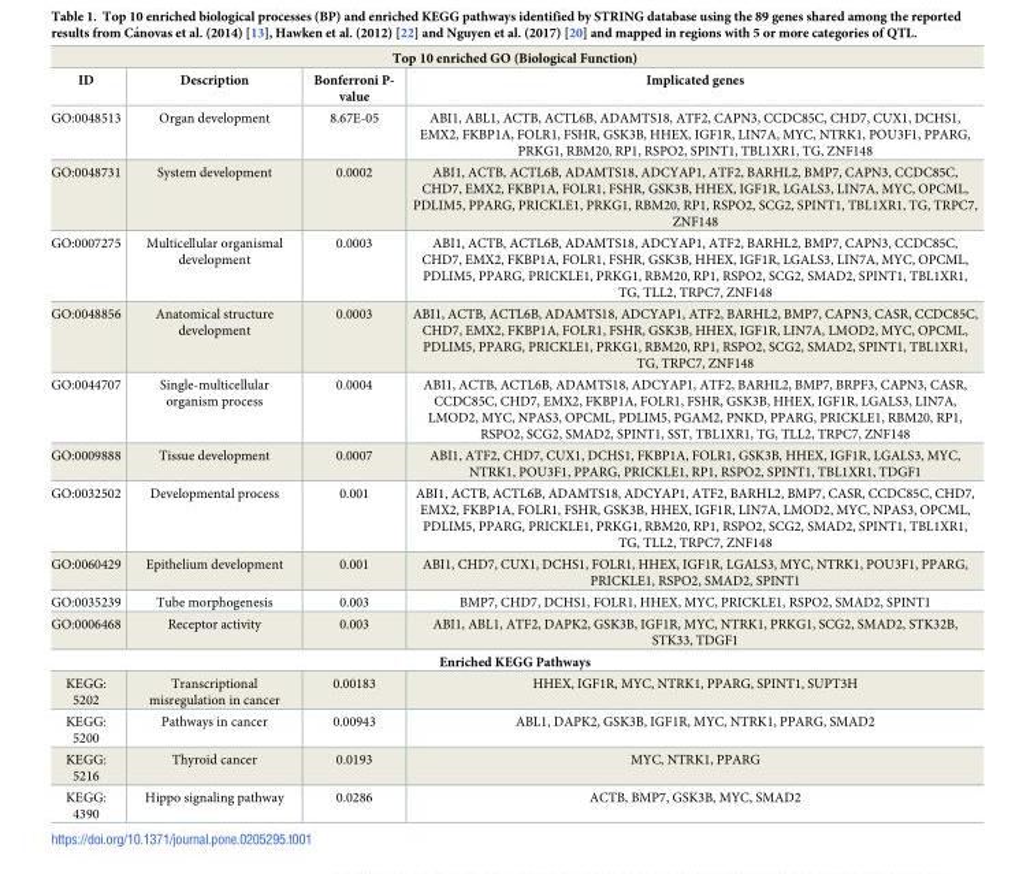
<table><thead><tr><td colspan="4">Top 10 enriched GO (Biological Function)</td></tr><tr><td>ID</td><td>Description</td><td>Bonferroni P- value</td><td>Implicated genes</td></tr></thead><tbody><tr><td>GO:0048513</td><td>Organ development</td><td>8.67E-05</td><td>ABI1, ABL1, ACTB, ACTL6B, ADAMTS18, ATF2, CAPN3, CCDC85C, CHD7, CUX1, DCHS1, EMX2, FKBP1A, FOLR1, FSHR, GSK3B, HHEX, IGF1R, LIN7A, MYC, NTRK1, POU3F1, PPARG, PRKG1, RBM20, RP1, RSPO2, SPINT1, TBL1XR1, TG, ZNF148</td></tr><tr><td>GO:0048731</td><td>System development</td><td>0.0002</td><td>ABI1, ACTB, ACTL6B, ADAMTS18, ADCYAP1, ATF2, BARHL2, BMP7, CAPN3, CCDC85C, CHD7, EMX2, FKBP1A, FOLR1, FSHR, GSK3B, HHEX, IGF1R, LGALS3, LIN7A, MYC, OPCML, PDLIM5, PPARG, PRICKLE1, PRKG1, RBM20, RP1, RSPO2, SCG2, SPINT1, TBL1XR1, TG, TRPC7, ZNF148</td></tr><tr><td>GO:0007275</td><td>Multicellular organismal development</td><td>0.0003</td><td>ABI1, ACTB, ACTL6B, ADAMTS18, ADCYAP1, ATF2, BARHL2, BMP7, CAPN3, CCDC85C, CHD7, EMX2, FKBP1A, FOLR1, FSHR, GSK3B, HHEX, IGF1R, LGALS3, LIN7A, MYC, OPCML, PDLIM5, PPARG, PRICKLE1, PRKG1, RBM20, RP1, RSPO2, SCG2, SMAD2, SPINT1, TBL1XR1, TG, TLL2, TRPC7, ZNF148</td></tr><tr><td>GO:0048856</td><td>Anatomical structure development</td><td>0.0003</td><td>ABI1, ACTB, ACTL6B, ADAMTS18, ADCYAP1, ATF2, BARHL2, BMP7, CAPN3, CASR, CCDC85C, CHD7, EMX2, FKBP1A, FOLR1, FSHR, GSK3B, HHEX, IGF1R, LIN7A, LMOD2, MYC, OPCML, PDLIM5, PPARG, PRICKLE1, PRKG1, RBM20, RP1, RSPO2, SCG2, SMAD2, SPINT1, TBL1XR1, TG, TRPC7, ZNF148</td></tr><tr><td>GO:0044707</td><td>Single-multicellular organism process</td><td>0.0004</td><td>ABI1, ACTB, ACTL6B, ADAMTS18, ADCYAP1, ATF2, BARHL2, BMP7, BRPF3, CAPN3, CASR, CCDC85C, CHD7, EMX2, FKBP1A, FOLR1, FSHR, GSK3B, HHEX, IGF1R, LGALS3, LIN7A, LMOD2, MYC, NPAS3, OPCML, PDLIM5, PGAM2, PNKD, PPARG, PRICKLE1, RBM20, RP1, RSPO2, SCG2, SMAD2, SPINT1, SST, TBL1XR1, TG, TLL2, TRPC7, ZNF148</td></tr><tr><td>GO:0009888</td><td>Tissue development</td><td>0.0007</td><td>ABI1, ATF2, CHD7, CUX1, DCHS1, FKBP1A, FOLR1, GSK3B, HHEX, IGF1R, LGALS3, MYC, NTRK1, POU3F1, PPARG, PRICKLE1, RP1, RSPO2, SPINT1, TBL1XR1, TDGF1</td></tr><tr><td>GO:0032502</td><td>Developmental process</td><td>0.001</td><td>ABI1, ACTB, ACTL6B, ADAMTS18, ADCYAP1, ATF2, BARHL2, BMP7, CASR, CCDC85C, CHD7, EMX2, FKBP1A, FOLR1, FSHR, GSK3B, HHEX, IGF1R, LIN7A, LMOD2, MYC, NPAS3, OPCML, PDLIM5, PPARG, PRICKLE1, PRKG1, RBM20, RP1, RSPO2, SCG2, SMAD2, SPINT1, TBL1XR1, TG, TLL2, TRPC7, ZNF148</td></tr><tr><td>GO:0060429</td><td>Epithelium development</td><td>0.001</td><td>ABI1, CHD7, CUX1, DCHS1, FOLR1, HHEX, IGF1R, LGALS3, MYC, NTRK1, POU3F1, PPARG, PRICKLE1, RSPO2, SMAD2, SPINT1</td></tr><tr><td>GO:0035239</td><td>Tube morphogenesis</td><td>0.003</td><td>BMP7, CHD7, DCHS1, FOLR1, HHEX, MYC, PRICKLE1, RSPO2, SMAD2, SPINT1</td></tr><tr><td>GO:0006468</td><td>Receptor activity</td><td>0.003</td><td>ABI1, ABL1, ATF2, DAPK2, GSK3B, IGF1R, MYC, NTRK1, PRKG1, SCG2, SMAD2, STK32B, STK33, TDGF1</td></tr><tr><td colspan="4">Enriched KEGG Pathways</td></tr><tr><td>KEGG: 5202</td><td>Transcriptional misregulation in cancer</td><td>0.00183</td><td>HHEX, IGF1R, MYC, NTRK1, PPARG, SPINT1, SUPT3H</td></tr><tr><td>KEGG: 5200</td><td>Pathways in cancer</td><td>0.00943</td><td>ABL1, DAPK2, GSK3B, IGF1R, MYC, NTRK1, PPARG, SMAD2</td></tr><tr><td>KEGG: 5216</td><td>Thyroid cancer</td><td>0.0193</td><td>MYC, NTRK1, PPARG</td></tr><tr><td>KEGG: 4390</td><td>Hippo signaling pathway</td><td>0.0286</td><td>ACTB, BMP7, GSK3B, MYC, SMAD2</td></tr></tbody></table>